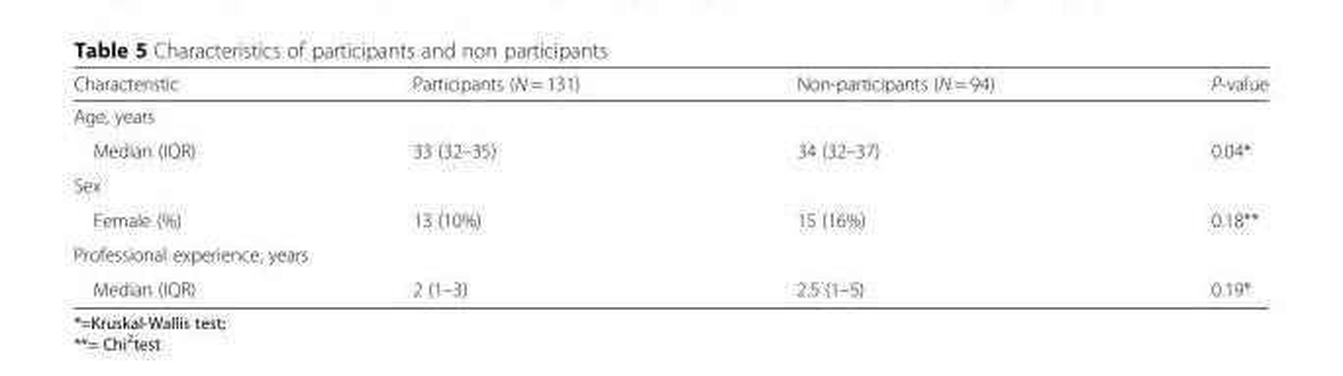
<table><thead><tr><td>Characteristic</td><td>Participants (N = 131)</td><td>Non-participants (N = 94)</td><td>P-value</td></tr></thead><tbody><tr><td colspan="4">Age, years</td></tr><tr><td>Median (IQR)</td><td>33 (32–35)</td><td>34 (32–37)</td><td>0.04*</td></tr><tr><td colspan="4">Sex</td></tr><tr><td>Female (%)</td><td>13 (10%)</td><td>15 (16%)</td><td>0.18**</td></tr><tr><td colspan="4">Professional experience, years</td></tr><tr><td>Median (IQR)</td><td>2 (1–3)</td><td>2.5 (1–5)</td><td>0.19*</td></tr></tbody></table>